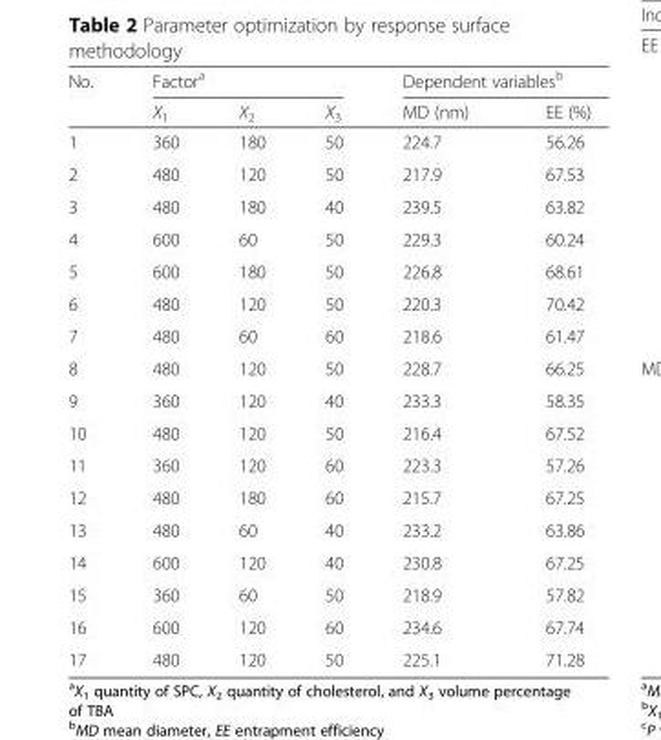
<table><thead><tr><td rowspan="2">No.</td><td colspan="3">Factor<sup>a</sup></td><td colspan="2">Dependent variables<sup>b</sup></td></tr><tr><td>X<sub>1</sub></td><td>X<sub>2</sub></td><td>X<sub>3</sub></td><td>MD (nm)</td><td>EE (%)</td></tr></thead><tbody><tr><td>1</td><td>360</td><td>180</td><td>50</td><td>224.7</td><td>56.26</td></tr><tr><td>2</td><td>480</td><td>120</td><td>50</td><td>217.9</td><td>67.53</td></tr><tr><td>3</td><td>480</td><td>180</td><td>40</td><td>239.5</td><td>63.82</td></tr><tr><td>4</td><td>600</td><td>60</td><td>50</td><td>229.3</td><td>60.24</td></tr><tr><td>5</td><td>600</td><td>180</td><td>50</td><td>226.8</td><td>68.61</td></tr><tr><td>6</td><td>480</td><td>120</td><td>50</td><td>220.3</td><td>70.42</td></tr><tr><td>7</td><td>480</td><td>60</td><td>60</td><td>218.6</td><td>61.47</td></tr><tr><td>8</td><td>480</td><td>120</td><td>50</td><td>228.7</td><td>66.25</td></tr><tr><td>9</td><td>360</td><td>120</td><td>40</td><td>233.3</td><td>58.35</td></tr><tr><td>10</td><td>480</td><td>120</td><td>50</td><td>216.4</td><td>67.52</td></tr><tr><td>11</td><td>360</td><td>120</td><td>60</td><td>223.3</td><td>57.26</td></tr><tr><td>12</td><td>480</td><td>180</td><td>60</td><td>215.7</td><td>67.25</td></tr><tr><td>13</td><td>480</td><td>60</td><td>40</td><td>233.2</td><td>63.86</td></tr><tr><td>14</td><td>600</td><td>120</td><td>40</td><td>230.8</td><td>67.25</td></tr><tr><td>15</td><td>360</td><td>60</td><td>50</td><td>218.9</td><td>57.82</td></tr><tr><td>16</td><td>600</td><td>120</td><td>60</td><td>234.6</td><td>67.74</td></tr><tr><td>17</td><td>480</td><td>120</td><td>50</td><td>225.1</td><td>71.28</td></tr></tbody></table>